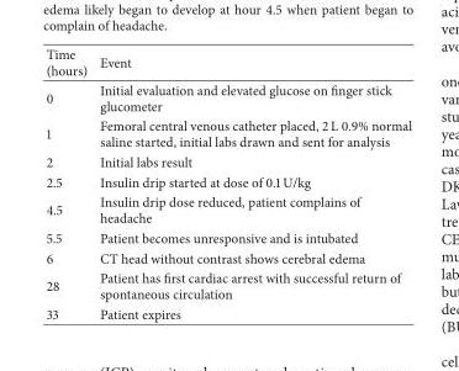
<table><thead><tr><td>Time (hours)</td><td>Event</td></tr></thead><tbody><tr><td>0</td><td>Initial evaluation and elevated glucose on finger stick glucometer</td></tr><tr><td>1</td><td>Femoral central venous catheter placed, 2 L 0.9% normal saline started, initial labs drawn and sent for analysis</td></tr><tr><td>2</td><td>Initial labs result</td></tr><tr><td>2.5</td><td>Insulin drip started at dose of 0.1 U/kg</td></tr><tr><td>4.5</td><td>Insulin drip dose reduced, patient complains of headache</td></tr><tr><td>5.5</td><td>Patient becomes unresponsive and is intubated</td></tr><tr><td>6</td><td>CT head without contrast shows cerebral edema</td></tr><tr><td>28</td><td>Patient has first cardiac arrest with successful return of spontaneous circulation</td></tr><tr><td>33</td><td>Patient expires</td></tr></tbody></table>